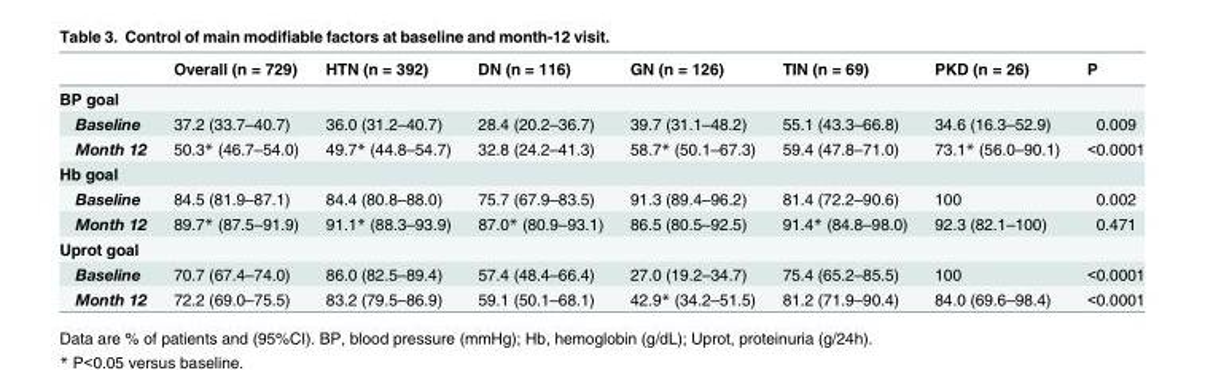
<table><thead><tr><td></td><td>Overall (n = 729)</td><td>HTN (n = 392)</td><td>DN (n = 116)</td><td>GN (n = 126)</td><td>TIN (n = 69)</td><td>PKD (n = 26)</td><td>P</td></tr></thead><tbody><tr><td colspan="8">BP goal</td></tr><tr><td>Baseline</td><td>37.2 (33.7–40.7)</td><td>36.0 (31.2–40.7)</td><td>28.4 (20.2–36.7)</td><td>39.7 (31.1–48.2)</td><td>55.1 (43.3–66.8)</td><td>34.6 (16.3–52.9)</td><td>0.009</td></tr><tr><td>Month 12</td><td>50.3* (46.7–54.0)</td><td>49.7* (44.8–54.7)</td><td>32.8 (24.2–41.3)</td><td>58.7* (50.1–67.3)</td><td>59.4 (47.8–71.0)</td><td>73.1* (56.0–90.1)</td><td>&lt;0.0001</td></tr><tr><td colspan="8">Hb goal</td></tr><tr><td>Baseline</td><td>84.5 (81.9–87.1)</td><td>84.4 (80.8–88.0)</td><td>75.7 (67.9–83.5)</td><td>91.3 (89.4–96.2)</td><td>81.4 (72.2–90.6)</td><td>100</td><td>0.002</td></tr><tr><td>Month 12</td><td>89.7* (87.5–91.9)</td><td>91.1* (88.3–93.9)</td><td>87.0* (80.9–93.1)</td><td>86.5 (80.5–92.5)</td><td>91.4* (84.8–98.0)</td><td>92.3 (82.1–100)</td><td>0.471</td></tr><tr><td colspan="8">Uprot goal</td></tr><tr><td>Baseline</td><td>70.7 (67.4–74.0)</td><td>86.0 (82.5–89.4)</td><td>57.4 (48.4–66.4)</td><td>27.0 (19.2–34.7)</td><td>75.4 (65.2–85.5)</td><td>100</td><td>&lt;0.0001</td></tr><tr><td>Month 12</td><td>72.2 (69.0–75.5)</td><td>83.2 (79.5–86.9)</td><td>59.1 (50.1–68.1)</td><td>42.9* (34.2–51.5)</td><td>81.2 (71.9–90.4)</td><td>84.0 (69.6–98.4)</td><td>&lt;0.0001</td></tr></tbody></table>